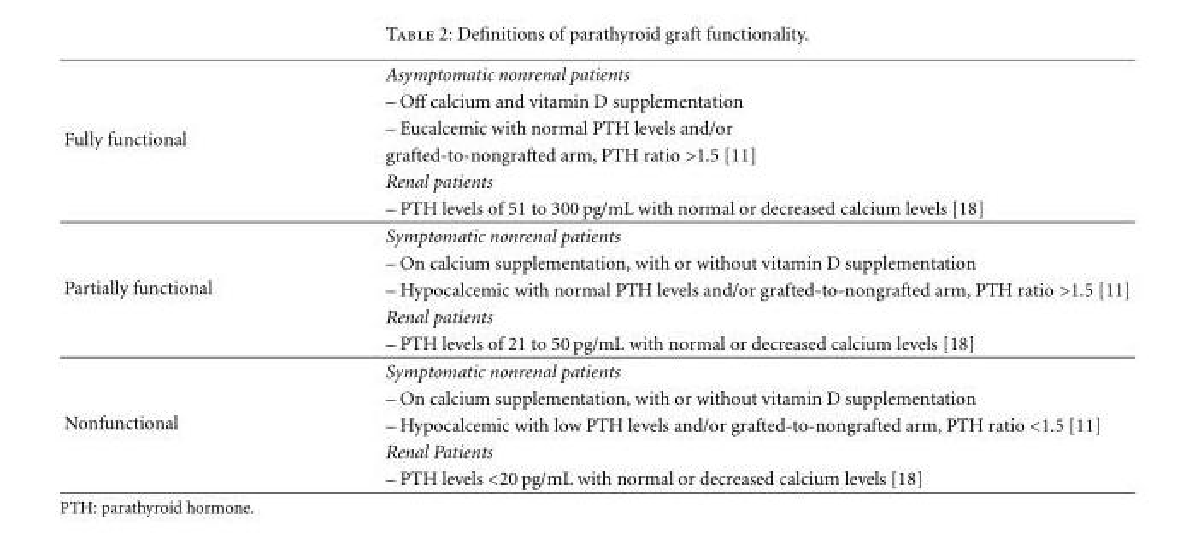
<table><tbody><tr><td rowspan="6">Fully functional</td><td>Asymptomatic nonrenal patients</td></tr><tr><td>– Off calcium and vitamin D supplementation</td></tr><tr><td>– Eucalcemic with normal PTH levels and/or</td></tr><tr><td>grafted-to-nongrafted arm, PTH ratio &gt;1.5 [11]</td></tr><tr><td>Renal patients</td></tr><tr><td>– PTH levels of 51 to 300 pg/mL with normal or decreased calcium levels [18]</td></tr><tr><td rowspan="5">Partially functional</td><td>Symptomatic nonrenal patients</td></tr><tr><td>– On calcium supplementation, with or without vitamin D supplementation</td></tr><tr><td>– Hypocalcemic with normal PTH levels and/or grafted-to-nongrafted arm, PTH ratio &gt;1.5 [11]</td></tr><tr><td>Renal patients</td></tr><tr><td>– PTH levels of 21 to 50 pg/mL with normal or decreased calcium levels [18]</td></tr><tr><td rowspan="5">Nonfunctional</td><td>Symptomatic nonrenal patients</td></tr><tr><td>– On calcium supplementation, with or without vitamin D supplementation</td></tr><tr><td>– Hypocalcemic with low PTH levels and/or grafted-to-nongrafted arm, PTH ratio &lt;1.5 [11]</td></tr><tr><td>Renal Patients</td></tr><tr><td>– PTH levels &lt;20 pg/mL with normal or decreased calcium levels [18]</td></tr></tbody></table>